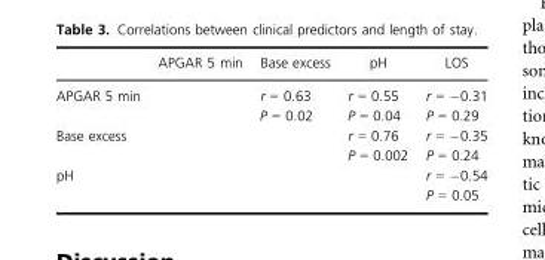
<table><thead><tr><td></td><td>APGAR 5 min</td><td>Base excess</td><td>pH</td><td>LOS</td></tr></thead><tbody><tr><td>APGAR 5 min</td><td></td><td>r = 0.63 P = 0.02</td><td>r = 0.55 P = 0.04</td><td>r = −0.31 P = 0.29</td></tr><tr><td>Base excess</td><td></td><td></td><td>r = 0.76 P = 0.002</td><td>r = −0.35 P = 0.24</td></tr><tr><td>pH</td><td></td><td></td><td></td><td>r = −0.54 P = 0.05</td></tr></tbody></table>